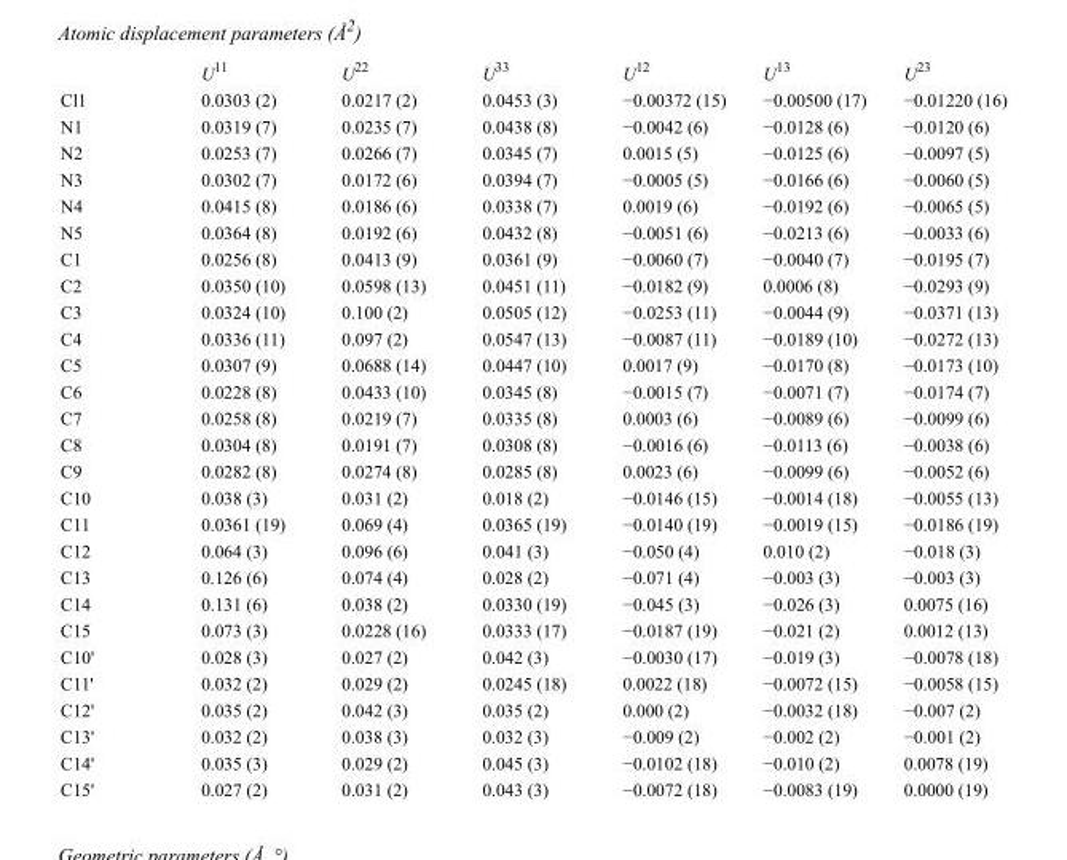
<table><thead><tr><td></td><td>U<sup>11</sup></td><td>U<sup>22</sup></td><td>U<sup>33</sup></td><td>U<sup>12</sup></td><td>U<sup>13</sup></td><td>U<sup>23</sup></td></tr></thead><tbody><tr><td>Cl1</td><td>0.0303 (2)</td><td>0.0217 (2)</td><td>0.0453 (3)</td><td>−0.00372 (15)</td><td>−0.00500 (17)</td><td>−0.01220 (16)</td></tr><tr><td>N1</td><td>0.0319 (7)</td><td>0.0235 (7)</td><td>0.0438 (8)</td><td>−0.0042 (6)</td><td>−0.0128 (6)</td><td>−0.0120 (6)</td></tr><tr><td>N2</td><td>0.0253 (7)</td><td>0.0266 (7)</td><td>0.0345 (7)</td><td>0.0015 (5)</td><td>−0.0125 (6)</td><td>−0.0097 (5)</td></tr><tr><td>N3</td><td>0.0302 (7)</td><td>0.0172 (6)</td><td>0.0394 (7)</td><td>−0.0005 (5)</td><td>−0.0166 (6)</td><td>−0.0060 (5)</td></tr><tr><td>N4</td><td>0.0415 (8)</td><td>0.0186 (6)</td><td>0.0338 (7)</td><td>0.0019 (6)</td><td>−0.0192 (6)</td><td>−0.0065 (5)</td></tr><tr><td>N5</td><td>0.0364 (8)</td><td>0.0192 (6)</td><td>0.0432 (8)</td><td>−0.0051 (6)</td><td>−0.0213 (6)</td><td>−0.0033 (6)</td></tr><tr><td>C1</td><td>0.0256 (8)</td><td>0.0413 (9)</td><td>0.0361 (9)</td><td>−0.0060 (7)</td><td>−0.0040 (7)</td><td>−0.0195 (7)</td></tr><tr><td>C2</td><td>0.0350 (10)</td><td>0.0598 (13)</td><td>0.0451 (11)</td><td>−0.0182 (9)</td><td>0.0006 (8)</td><td>−0.0293 (9)</td></tr><tr><td>C3</td><td>0.0324 (10)</td><td>0.100 (2)</td><td>0.0505 (12)</td><td>−0.0253 (11)</td><td>−0.0044 (9)</td><td>−0.0371 (13)</td></tr><tr><td>C4</td><td>0.0336 (11)</td><td>0.097 (2)</td><td>0.0547 (13)</td><td>−0.0087 (11)</td><td>−0.0189 (10)</td><td>−0.0272 (13)</td></tr><tr><td>C5</td><td>0.0307 (9)</td><td>0.0688 (14)</td><td>0.0447 (10)</td><td>0.0017 (9)</td><td>−0.0170 (8)</td><td>−0.0173 (10)</td></tr><tr><td>C6</td><td>0.0228 (8)</td><td>0.0433 (10)</td><td>0.0345 (8)</td><td>−0.0015 (7)</td><td>−0.0071 (7)</td><td>−0.0174 (7)</td></tr><tr><td>C7</td><td>0.0258 (8)</td><td>0.0219 (7)</td><td>0.0335 (8)</td><td>0.0003 (6)</td><td>−0.0089 (6)</td><td>−0.0099 (6)</td></tr><tr><td>C8</td><td>0.0304 (8)</td><td>0.0191 (7)</td><td>0.0308 (8)</td><td>−0.0016 (6)</td><td>−0.0113 (6)</td><td>−0.0038 (6)</td></tr><tr><td>C9</td><td>0.0282 (8)</td><td>0.0274 (8)</td><td>0.0285 (8)</td><td>0.0023 (6)</td><td>−0.0099 (6)</td><td>−0.0052 (6)</td></tr><tr><td>C10</td><td>0.038 (3)</td><td>0.031 (2)</td><td>0.018 (2)</td><td>−0.0146 (15)</td><td>−0.0014 (18)</td><td>−0.0055 (13)</td></tr><tr><td>C11</td><td>0.0361 (19)</td><td>0.069 (4)</td><td>0.0365 (19)</td><td>−0.0140 (19)</td><td>−0.0019 (15)</td><td>−0.0186 (19)</td></tr><tr><td>C12</td><td>0.064 (3)</td><td>0.096 (6)</td><td>0.041 (3)</td><td>−0.050 (4)</td><td>0.010 (2)</td><td>−0.018 (3)</td></tr><tr><td>C13</td><td>0.126 (6)</td><td>0.074 (4)</td><td>0.028 (2)</td><td>−0.071 (4)</td><td>−0.003 (3)</td><td>−0.003 (3)</td></tr><tr><td>C14</td><td>0.131 (6)</td><td>0.038 (2)</td><td>0.0330 (19)</td><td>−0.045 (3)</td><td>−0.026 (3)</td><td>0.0075 (16)</td></tr><tr><td>C15</td><td>0.073 (3)</td><td>0.0228 (16)</td><td>0.0333 (17)</td><td>−0.0187 (19)</td><td>−0.021 (2)</td><td>0.0012 (13)</td></tr><tr><td>C10&#x27;</td><td>0.028 (3)</td><td>0.027 (2)</td><td>0.042 (3)</td><td>−0.0030 (17)</td><td>−0.019 (3)</td><td>−0.0078 (18)</td></tr><tr><td>C11&#x27;</td><td>0.032 (2)</td><td>0.029 (2)</td><td>0.0245 (18)</td><td>0.0022 (18)</td><td>−0.0072 (15)</td><td>−0.0058 (15)</td></tr><tr><td>C12&#x27;</td><td>0.035 (2)</td><td>0.042 (3)</td><td>0.035 (2)</td><td>0.000 (2)</td><td>−0.0032 (18)</td><td>−0.007 (2)</td></tr><tr><td>C13&#x27;</td><td>0.032 (2)</td><td>0.038 (3)</td><td>0.032 (3)</td><td>−0.009 (2)</td><td>−0.002 (2)</td><td>−0.001 (2)</td></tr><tr><td>C14&#x27;</td><td>0.035 (3)</td><td>0.029 (2)</td><td>0.045 (3)</td><td>−0.0102 (18)</td><td>−0.010 (2)</td><td>0.0078 (19)</td></tr><tr><td>C15&#x27;</td><td>0.027 (2)</td><td>0.031 (2)</td><td>0.043 (3)</td><td>−0.0072 (18)</td><td>−0.0083 (19)</td><td>0.0000 (19)</td></tr></tbody></table>